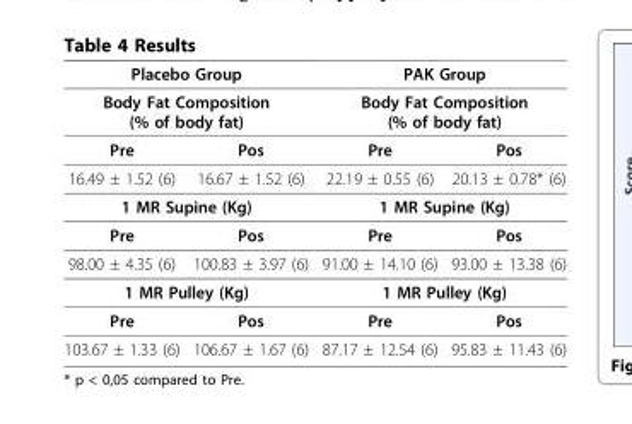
<table><thead><tr><td rowspan="2" colspan="2">Placebo Group Body Fat Composition (% of body fat)</td><td rowspan="2" colspan="2">PAK Group Body Fat Composition (% of body fat)</td></tr><tr></tr><tr><td>Pre</td><td>Pos</td><td>Pre</td><td>Pos</td></tr></thead><tbody><tr><td>16.49 ± 1.52 (6)</td><td>16.67 ± 1.52 (6)</td><td>22.19 ± 0.55 (6)</td><td>20.13 ± 0.78* (6)</td></tr><tr><td colspan="2">1 MR Supine (Kg)</td><td colspan="2">1 MR Supine (Kg)</td></tr><tr><td>Pre</td><td>Pos</td><td>Pre</td><td>Pos</td></tr><tr><td>98.00 ± 4.35 (6)</td><td>100.83 ± 3.97 (6)</td><td>91.00 ± 14.10 (6)</td><td>93.00 ± 13.38 (6)</td></tr><tr><td colspan="2">1 MR Pulley (Kg)</td><td colspan="2">1 MR Pulley (Kg)</td></tr><tr><td>Pre</td><td>Pos</td><td>Pre</td><td>Pos</td></tr><tr><td>103.67 ± 1.33 (6)</td><td>106.67 ± 1.67 (6)</td><td>87.17 ± 12.54 (6)</td><td>95.83 ± 11.43 (6)</td></tr></tbody></table>